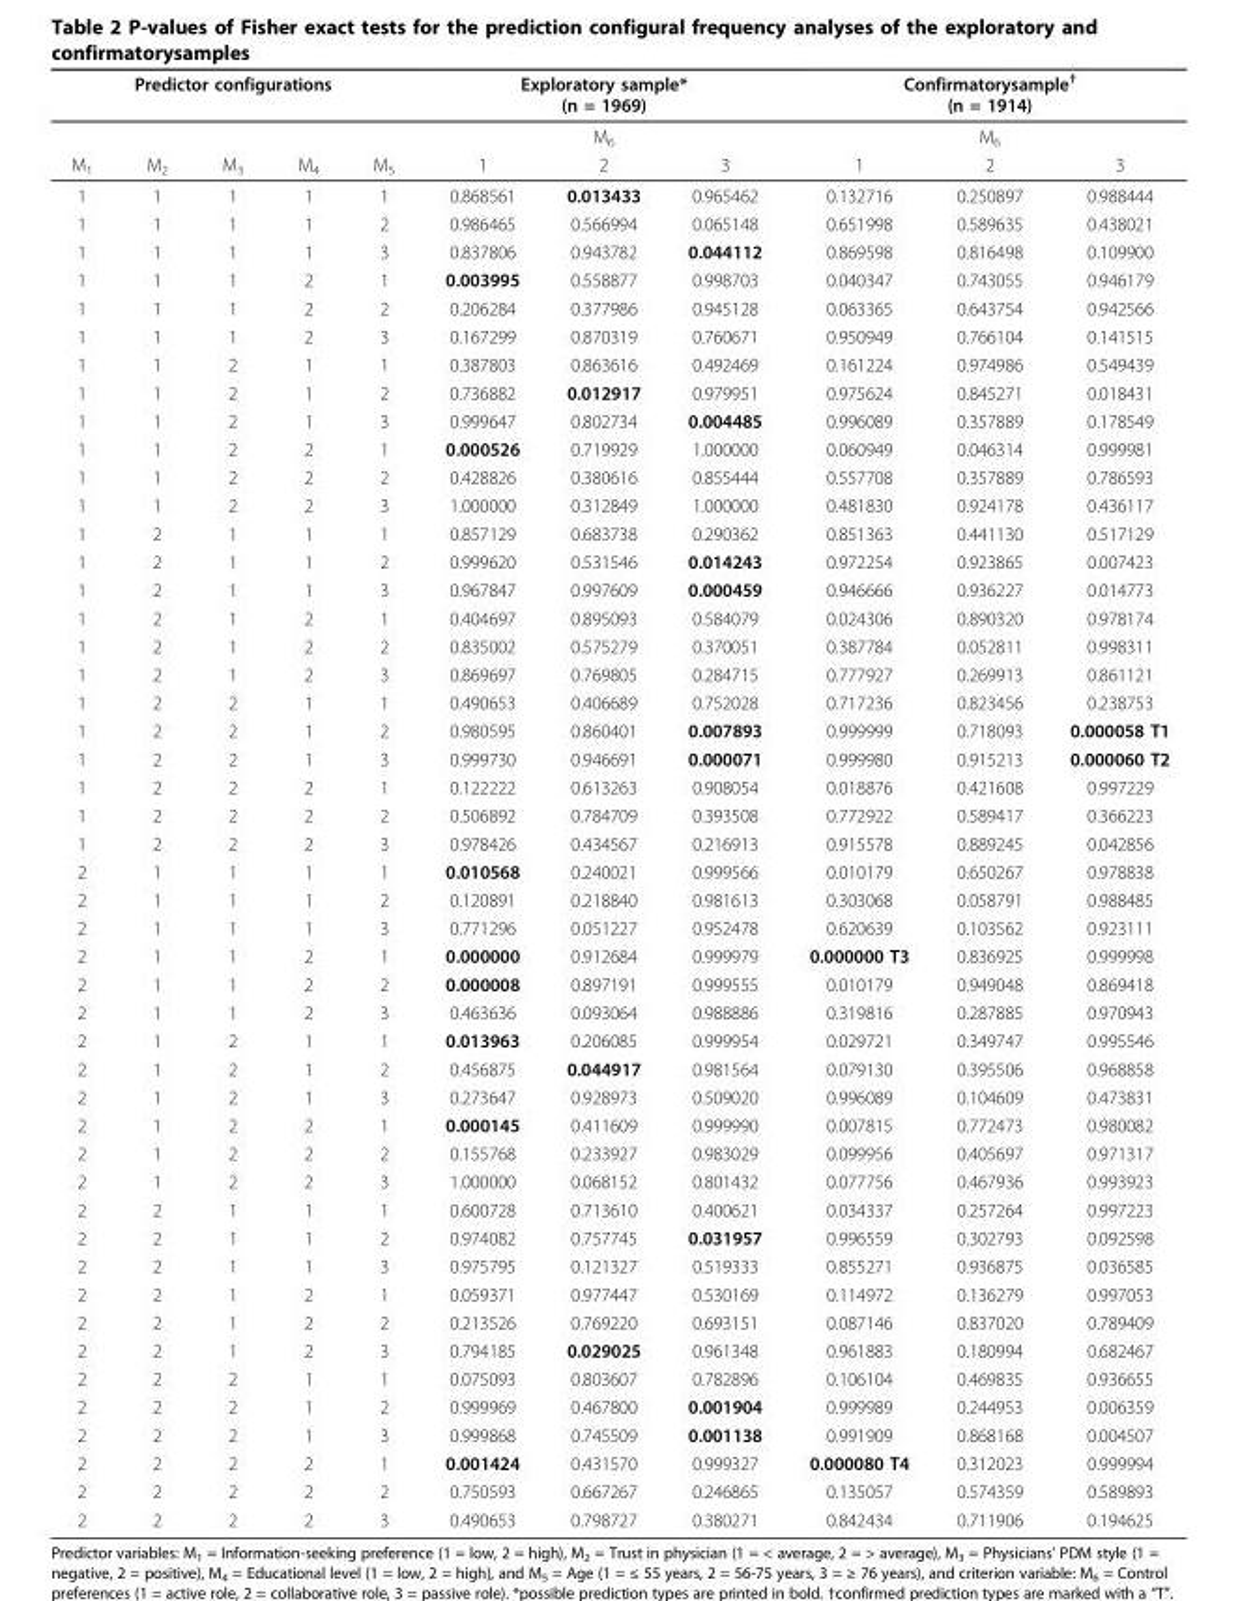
<table><thead><tr><td colspan="5">Predictor configurations</td><td rowspan="2" colspan="3">Exploratory sample* (n = 1969) M6</td><td rowspan="2" colspan="3">Confirmatorysample† (n = 1914) M6</td></tr><tr><td rowspan="2">M1</td><td rowspan="2">M2</td><td rowspan="2">M3</td><td rowspan="2">M4</td><td rowspan="2">M5</td></tr><tr><td>1</td><td>2</td><td>3</td><td>1</td><td>2</td><td>3</td></tr></thead><tbody><tr><td>1</td><td>1</td><td>1</td><td>1</td><td>1</td><td>0.868561</td><td>0.013433</td><td>0.965462</td><td>0.132716</td><td>0.250897</td><td>0.988444</td></tr><tr><td>1</td><td>1</td><td>1</td><td>1</td><td>2</td><td>0.986465</td><td>0.566994</td><td>0.065148</td><td>0.651998</td><td>0.589635</td><td>0.438021</td></tr><tr><td>1</td><td>1</td><td>1</td><td>1</td><td>3</td><td>0.837806</td><td>0.943782</td><td>0.044112</td><td>0.869598</td><td>0.816498</td><td>0.109900</td></tr><tr><td>1</td><td>1</td><td>1</td><td>2</td><td>1</td><td>0.003995</td><td>0.558877</td><td>0.998703</td><td>0.040347</td><td>0.743055</td><td>0.946179</td></tr><tr><td>1</td><td>1</td><td>1</td><td>2</td><td>2</td><td>0.206284</td><td>0.377986</td><td>0.945128</td><td>0.063365</td><td>0.643754</td><td>0.942566</td></tr><tr><td>1</td><td>1</td><td>1</td><td>2</td><td>3</td><td>0.167299</td><td>0.870319</td><td>0.760671</td><td>0.950949</td><td>0.766104</td><td>0.141515</td></tr><tr><td>1</td><td>1</td><td>2</td><td>1</td><td>1</td><td>0.387803</td><td>0.863616</td><td>0.492469</td><td>0.161224</td><td>0.974986</td><td>0.549439</td></tr><tr><td>1</td><td>1</td><td>2</td><td>1</td><td>2</td><td>0.736882</td><td>0.012917</td><td>0.979951</td><td>0.975624</td><td>0.845271</td><td>0.018431</td></tr><tr><td>1</td><td>1</td><td>2</td><td>1</td><td>3</td><td>0.999647</td><td>0.802734</td><td>0.004485</td><td>0.996089</td><td>0.357889</td><td>0.178549</td></tr><tr><td>1</td><td>1</td><td>2</td><td>2</td><td>1</td><td>0.000526</td><td>0.719929</td><td>1.000000</td><td>0.060949</td><td>0.046314</td><td>0.999981</td></tr><tr><td>1</td><td>1</td><td>2</td><td>2</td><td>2</td><td>0.428826</td><td>0.380616</td><td>0.855444</td><td>0.557708</td><td>0.357889</td><td>0.786593</td></tr><tr><td>1</td><td>1</td><td>2</td><td>2</td><td>3</td><td>1.000000</td><td>0.312849</td><td>1.000000</td><td>0.481830</td><td>0.924178</td><td>0.436117</td></tr><tr><td>1</td><td>2</td><td>1</td><td>1</td><td>1</td><td>0.857129</td><td>0.683738</td><td>0.290362</td><td>0.851363</td><td>0.441130</td><td>0.517129</td></tr><tr><td>1</td><td>2</td><td>1</td><td>1</td><td>2</td><td>0.999620</td><td>0.531546</td><td>0.014243</td><td>0.972254</td><td>0.923865</td><td>0.007423</td></tr><tr><td>1</td><td>2</td><td>1</td><td>1</td><td>3</td><td>0.967847</td><td>0.997609</td><td>0.000459</td><td>0.946666</td><td>0.936227</td><td>0.014773</td></tr><tr><td>1</td><td>2</td><td>1</td><td>2</td><td>1</td><td>0.404697</td><td>0.895093</td><td>0.584079</td><td>0.024306</td><td>0.890320</td><td>0.978174</td></tr><tr><td>1</td><td>2</td><td>1</td><td>2</td><td>2</td><td>0.835002</td><td>0.575279</td><td>0.370051</td><td>0.387784</td><td>0.052811</td><td>0.998311</td></tr><tr><td>1</td><td>2</td><td>1</td><td>2</td><td>3</td><td>0.869697</td><td>0.769805</td><td>0.284715</td><td>0.777927</td><td>0.269913</td><td>0.861121</td></tr><tr><td>1</td><td>2</td><td>2</td><td>1</td><td>1</td><td>0.490653</td><td>0.406689</td><td>0.752028</td><td>0.717236</td><td>0.823456</td><td>0.238753</td></tr><tr><td>1</td><td>2</td><td>2</td><td>1</td><td>2</td><td>0.980595</td><td>0.860401</td><td>0.007893</td><td>0.999999</td><td>0.718093</td><td>0.000058 T1</td></tr><tr><td>1</td><td>2</td><td>2</td><td>1</td><td>3</td><td>0.999730</td><td>0.946691</td><td>0.000071</td><td>0.999980</td><td>0.915213</td><td>0.000060 T2</td></tr><tr><td>1</td><td>2</td><td>2</td><td>2</td><td>1</td><td>0.122222</td><td>0.613263</td><td>0.908054</td><td>0.018876</td><td>0.421608</td><td>0.997229</td></tr><tr><td>1</td><td>2</td><td>2</td><td>2</td><td>2</td><td>0.506892</td><td>0.784709</td><td>0.393508</td><td>0.772922</td><td>0.589417</td><td>0.366223</td></tr><tr><td>1</td><td>2</td><td>2</td><td>2</td><td>3</td><td>0.978426</td><td>0.434567</td><td>0.216913</td><td>0.915578</td><td>0.889245</td><td>0.042856</td></tr><tr><td>2</td><td>1</td><td>1</td><td>1</td><td>1</td><td>0.010568</td><td>0.240021</td><td>0.999566</td><td>0.010179</td><td>0.650267</td><td>0.978838</td></tr><tr><td>2</td><td>1</td><td>1</td><td>1</td><td>2</td><td>0.120891</td><td>0.218840</td><td>0.981613</td><td>0.303068</td><td>0.058791</td><td>0.988485</td></tr><tr><td>2</td><td>1</td><td>1</td><td>1</td><td>3</td><td>0.771296</td><td>0.051227</td><td>0.952478</td><td>0.620639</td><td>0.103562</td><td>0.923111</td></tr><tr><td>2</td><td>1</td><td>1</td><td>2</td><td>1</td><td>0.000000</td><td>0.912684</td><td>0.999979</td><td>0.000000 T3</td><td>0.836925</td><td>0.999998</td></tr><tr><td>2</td><td>1</td><td>1</td><td>2</td><td>2</td><td>0.000008</td><td>0.897191</td><td>0.999555</td><td>0.010179</td><td>0.949048</td><td>0.869418</td></tr><tr><td>2</td><td>1</td><td>1</td><td>2</td><td>3</td><td>0.463636</td><td>0.093064</td><td>0.988886</td><td>0.319816</td><td>0.287885</td><td>0.970943</td></tr><tr><td>2</td><td>1</td><td>2</td><td>1</td><td>1</td><td>0.013963</td><td>0.206085</td><td>0.999954</td><td>0.029721</td><td>0.349747</td><td>0.995546</td></tr><tr><td>2</td><td>1</td><td>2</td><td>1</td><td>2</td><td>0.456875</td><td>0.044917</td><td>0.981564</td><td>0.079130</td><td>0.395506</td><td>0.968858</td></tr><tr><td>2</td><td>1</td><td>2</td><td>1</td><td>3</td><td>0.273647</td><td>0.928973</td><td>0.509020</td><td>0.996089</td><td>0.104609</td><td>0.473831</td></tr><tr><td>2</td><td>1</td><td>2</td><td>2</td><td>1</td><td>0.000145</td><td>0.411609</td><td>0.999990</td><td>0.007815</td><td>0.772473</td><td>0.980082</td></tr><tr><td>2</td><td>1</td><td>2</td><td>2</td><td>2</td><td>0.155768</td><td>0.233927</td><td>0.983029</td><td>0.099956</td><td>0.405697</td><td>0.971317</td></tr><tr><td>2</td><td>1</td><td>2</td><td>2</td><td>3</td><td>1.000000</td><td>0.068152</td><td>0.801432</td><td>0.077756</td><td>0.467936</td><td>0.993923</td></tr><tr><td>2</td><td>2</td><td>1</td><td>1</td><td>1</td><td>0.600728</td><td>0.713610</td><td>0.400621</td><td>0.034337</td><td>0.257264</td><td>0.997223</td></tr><tr><td>2</td><td>2</td><td>1</td><td>1</td><td>2</td><td>0.974082</td><td>0.757745</td><td>0.031957</td><td>0.996559</td><td>0.302793</td><td>0.092598</td></tr><tr><td>2</td><td>2</td><td>1</td><td>1</td><td>3</td><td>0.975795</td><td>0.121327</td><td>0.519333</td><td>0.855271</td><td>0.936875</td><td>0.036585</td></tr><tr><td>2</td><td>2</td><td>1</td><td>2</td><td>1</td><td>0.059371</td><td>0.977447</td><td>0.530169</td><td>0.114972</td><td>0.136279</td><td>0.997053</td></tr><tr><td>2</td><td>2</td><td>1</td><td>2</td><td>2</td><td>0.213526</td><td>0.769220</td><td>0.693151</td><td>0.087146</td><td>0.837020</td><td>0.789409</td></tr><tr><td>2</td><td>2</td><td>1</td><td>2</td><td>3</td><td>0.794185</td><td>0.029025</td><td>0.961348</td><td>0.961883</td><td>0.180994</td><td>0.682467</td></tr><tr><td>2</td><td>2</td><td>2</td><td>1</td><td>1</td><td>0.075093</td><td>0.803607</td><td>0.782896</td><td>0.106104</td><td>0.469835</td><td>0.936655</td></tr><tr><td>2</td><td>2</td><td>2</td><td>1</td><td>2</td><td>0.999969</td><td>0.467800</td><td>0.001904</td><td>0.999989</td><td>0.244953</td><td>0.006359</td></tr><tr><td>2</td><td>2</td><td>2</td><td>1</td><td>3</td><td>0.999868</td><td>0.745509</td><td>0.001138</td><td>0.991909</td><td>0.868168</td><td>0.004507</td></tr><tr><td>2</td><td>2</td><td>2</td><td>2</td><td>1</td><td>0.001424</td><td>0.431570</td><td>0.999327</td><td>0.000080 T4</td><td>0.312023</td><td>0.999994</td></tr><tr><td>2</td><td>2</td><td>2</td><td>2</td><td>2</td><td>0.750593</td><td>0.667267</td><td>0.246865</td><td>0.135057</td><td>0.574359</td><td>0.589893</td></tr><tr><td>2</td><td>2</td><td>2</td><td>2</td><td>3</td><td>0.490653</td><td>0.798727</td><td>0.380271</td><td>0.842434</td><td>0.711906</td><td>0.194625</td></tr></tbody></table>